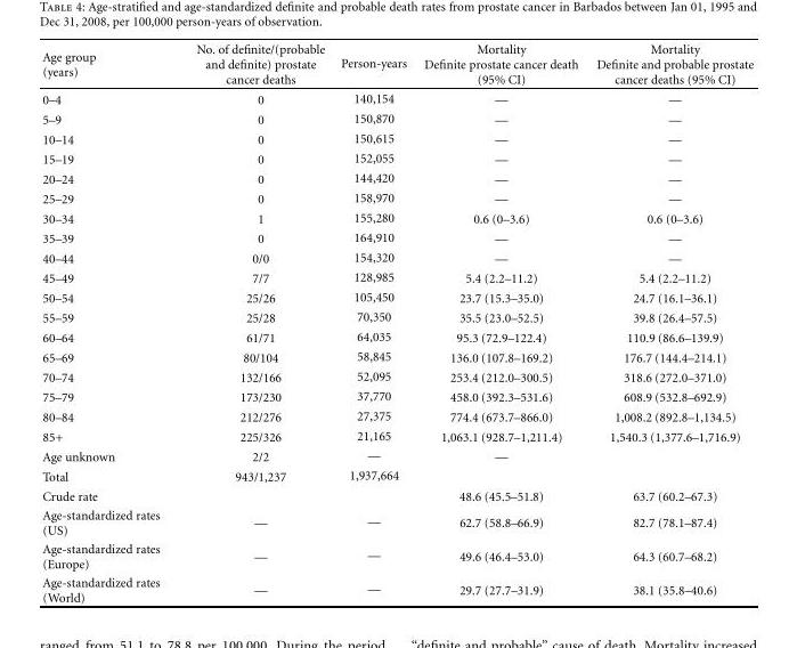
<table><thead><tr><td>Age group (years)</td><td>No. of definite/(probable and definite) prostate cancer deaths</td><td>Person-years</td><td>Mortality Definite prostate cancer death (95% CI)</td><td>Mortality Definite and probable prostate cancer deaths (95% CI)</td></tr></thead><tbody><tr><td>0–4</td><td>0</td><td>140,154</td><td>—</td><td>—</td></tr><tr><td>5–9</td><td>0</td><td>150,870</td><td>—</td><td>—</td></tr><tr><td>10–14</td><td>0</td><td>150,615</td><td>—</td><td>—</td></tr><tr><td>15–19</td><td>0</td><td>152,055</td><td>—</td><td>—</td></tr><tr><td>20–24</td><td>0</td><td>144,420</td><td>—</td><td>—</td></tr><tr><td>25–29</td><td>0</td><td>158,970</td><td>—</td><td>—</td></tr><tr><td>30–34</td><td>1</td><td>155,280</td><td>0.6 (0–3.6)</td><td>0.6 (0–3.6)</td></tr><tr><td>35–39</td><td>0</td><td>164,910</td><td>—</td><td>—</td></tr><tr><td>40–44</td><td>0/0</td><td>154,320</td><td>—</td><td>—</td></tr><tr><td>45–49</td><td>7/7</td><td>128,985</td><td>5.4 (2.2–11.2)</td><td>5.4 (2.2–11.2)</td></tr><tr><td>50–54</td><td>25/26</td><td>105,450</td><td>23.7 (15.3–35.0)</td><td>24.7 (16.1–36.1)</td></tr><tr><td>55–59</td><td>25/28</td><td>70,350</td><td>35.5 (23.0–52.5)</td><td>39.8 (26.4–57.5)</td></tr><tr><td>60–64</td><td>61/71</td><td>64,035</td><td>95.3 (72.9–122.4)</td><td>110.9 (86.6–139.9)</td></tr><tr><td>65–69</td><td>80/104</td><td>58,845</td><td>136.0 (107.8–169.2)</td><td>176.7 (144.4–214.1)</td></tr><tr><td>70–74</td><td>132/166</td><td>52,095</td><td>253.4 (212.0–300.5)</td><td>318.6 (272.0–371.0)</td></tr><tr><td>75–79</td><td>173/230</td><td>37,770</td><td>458.0 (392.3–531.6)</td><td>608.9 (532.8–692.9)</td></tr><tr><td>80–84</td><td>212/276</td><td>27,375</td><td>774.4 (673.7–866.0)</td><td>1,008.2 (892.8–1,134.5)</td></tr><tr><td>85+</td><td>225/326</td><td>21,165</td><td>1,063.1 (928.7–1,211.4)</td><td>1,540.3 (1,377.6–1,716.9)</td></tr><tr><td>Age unknown</td><td>2/2</td><td>—</td><td>—</td><td></td></tr><tr><td>Total</td><td>943/1,237</td><td>1,937,664</td><td></td><td></td></tr><tr><td>Crude rate</td><td></td><td></td><td>48.6 (45.5–51.8)</td><td>63.7 (60.2–67.3)</td></tr><tr><td>Age-standardized rates (US)</td><td>—</td><td>—</td><td>62.7 (58.8–66.9)</td><td>82.7 (78.1–87.4)</td></tr><tr><td>Age-standardized rates (Europe)</td><td>—</td><td>—</td><td>49.6 (46.4–53.0)</td><td>64.3 (60.7–68.2)</td></tr><tr><td>Age-standardized rates (World)</td><td>—</td><td>—</td><td>29.7 (27.7–31.9)</td><td>38.1 (35.8–40.6)</td></tr></tbody></table>